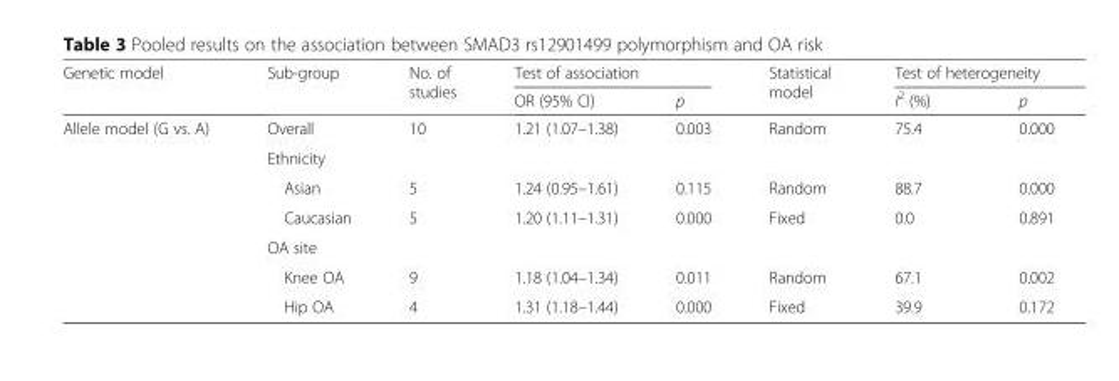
<table><thead><tr><td rowspan="2">Genetic model</td><td rowspan="2">Sub-group</td><td rowspan="2">No. of studies</td><td colspan="2">Test of association</td><td rowspan="2">Statistical model</td><td colspan="2">Test of heterogeneity</td></tr><tr><td>OR (95% CI)</td><td>p</td><td>I<sup>2</sup> (%)</td><td>p</td></tr></thead><tbody><tr><td rowspan="7">Allele model (G vs. A)</td><td>Overall</td><td>10</td><td>1.21 (1.07–1.38)</td><td>0.003</td><td>Random</td><td>75.4</td><td>0.000</td></tr><tr><td colspan="7">Ethnicity</td></tr><tr><td>Asian</td><td>5</td><td>1.24 (0.95–1.61)</td><td>0.115</td><td>Random</td><td>88.7</td><td>0.000</td></tr><tr><td>Caucasian</td><td>5</td><td>1.20 (1.11–1.31)</td><td>0.000</td><td>Fixed</td><td>0.0</td><td>0.891</td></tr><tr><td colspan="7">OA site</td></tr><tr><td>Knee OA</td><td>9</td><td>1.18 (1.04–1.34)</td><td>0.011</td><td>Random</td><td>67.1</td><td>0.002</td></tr><tr><td>Hip OA</td><td>4</td><td>1.31 (1.18–1.44)</td><td>0.000</td><td>Fixed</td><td>39.9</td><td>0.172</td></tr></tbody></table>